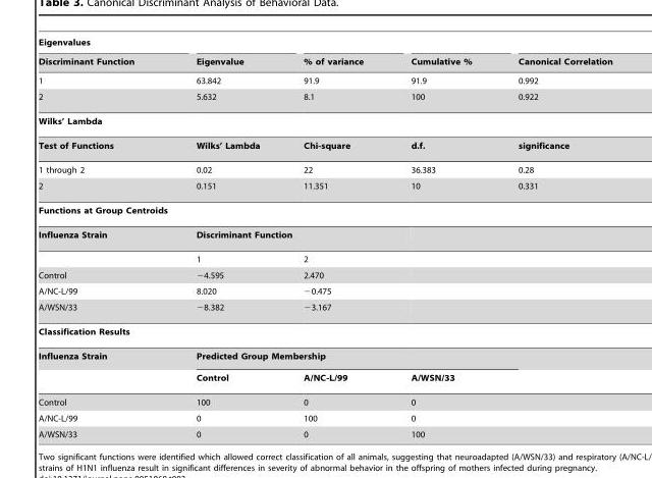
<table><thead><tr><td rowspan="2">Eigenvalues Discriminant Function</td><td rowspan="2">Eigenvalue</td><td rowspan="2">% of variance</td><td rowspan="2">Cumulative %</td><td rowspan="2">Canonical Correlation</td></tr><tr></tr></thead><tbody><tr><td>1</td><td>63.842</td><td>91.9</td><td>91.9</td><td>0.992</td></tr><tr><td>2</td><td>5.632</td><td>8.1</td><td>100</td><td>0.922</td></tr><tr><td colspan="5">Wilks’ Lambda</td></tr><tr><td>Test of Functions</td><td>Wilks’ Lambda</td><td>Chi-square</td><td>d.f.</td><td>significance</td></tr><tr><td>1 through 2</td><td>0.02</td><td>22</td><td>36.383</td><td>0.28</td></tr><tr><td>2</td><td>0.151</td><td>11.351</td><td>10</td><td>0.331</td></tr><tr><td colspan="5">Functions at Group Centroids</td></tr><tr><td rowspan="2">Influenza Strain</td><td colspan="2">Discriminant Function</td><td></td><td></td></tr><tr><td>1</td><td>2</td><td></td><td></td></tr><tr><td>Control</td><td>−4.595</td><td>2.470</td><td></td><td></td></tr><tr><td>A/NC-L/99</td><td>8.020</td><td>−0.475</td><td></td><td></td></tr><tr><td>A/WSN/33</td><td>−8.382</td><td>−3.167</td><td></td><td></td></tr><tr><td colspan="5">Classification Results</td></tr><tr><td rowspan="2">Influenza Strain</td><td colspan="3">Predicted Group Membership</td><td></td></tr><tr><td>Control</td><td>A/NC-L/99</td><td>A/WSN/33</td><td></td></tr><tr><td>Control</td><td>100</td><td>0</td><td>0</td><td></td></tr><tr><td>A/NC-L/99</td><td>0</td><td>100</td><td>0</td><td></td></tr><tr><td>A/WSN/33</td><td>0</td><td>0</td><td>100</td><td></td></tr></tbody></table>